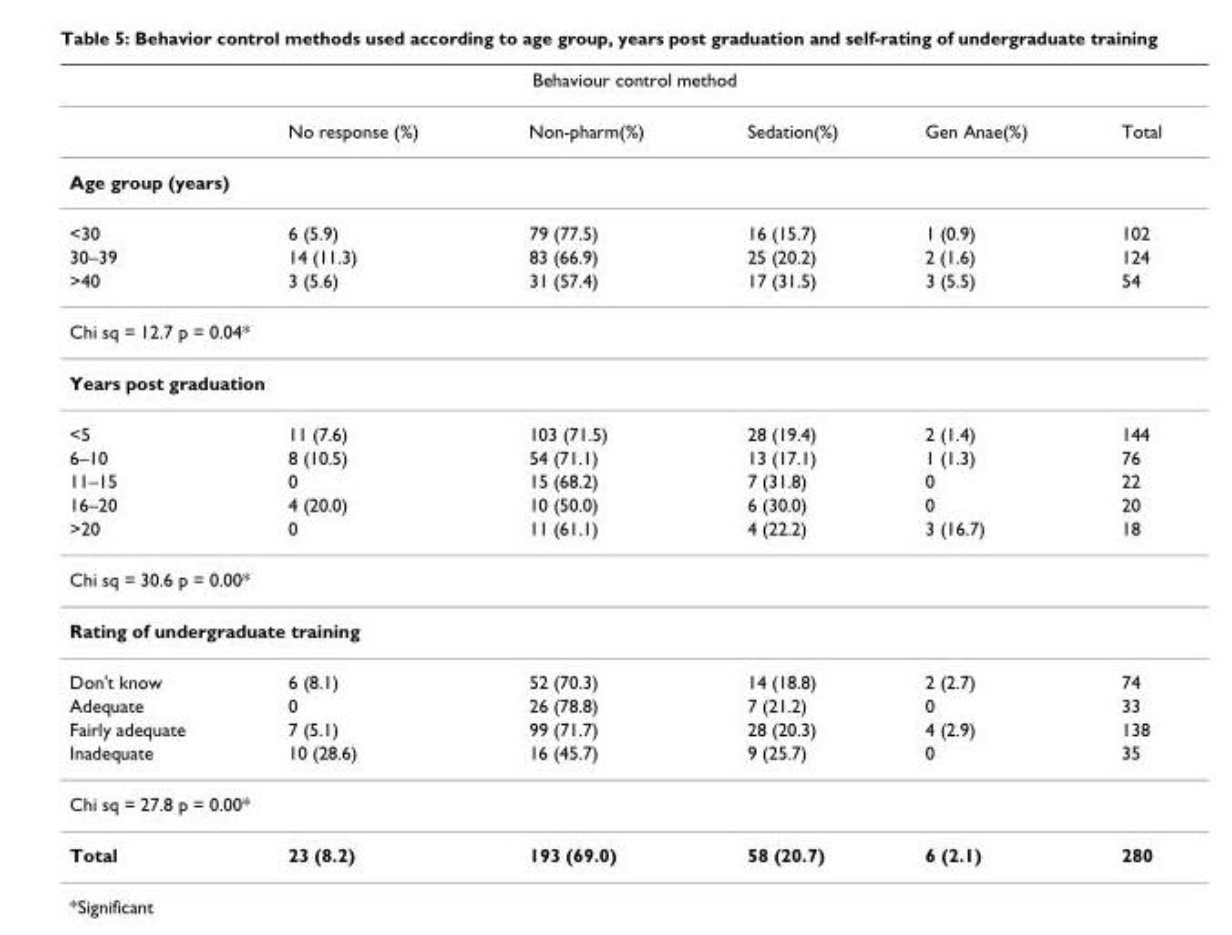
<table><thead><tr><td colspan="6">Behaviour control method</td></tr><tr><td></td><td>No response (%)</td><td>Non-pharm(%)</td><td>Sedation(%)</td><td>Gen Anae(%)</td><td>Total</td></tr></thead><tbody><tr><td colspan="6">Age group (years)</td></tr><tr><td>&lt;30</td><td>6 (5.9)</td><td>79 (77.5)</td><td>16 (15.7)</td><td>1 (0.9)</td><td>102</td></tr><tr><td>30–39</td><td>14 (11.3)</td><td>83 (66.9)</td><td>25 (20.2)</td><td>2 (1.6)</td><td>124</td></tr><tr><td>&gt;40</td><td>3 (5.6)</td><td>31 (57.4)</td><td>17 (31.5)</td><td>3 (5.5)</td><td>54</td></tr><tr><td colspan="6">Chi sq = 12.7 p = 0.04*</td></tr><tr><td colspan="6">Years post graduation</td></tr><tr><td>&lt;5</td><td>11 (7.6)</td><td>103 (71.5)</td><td>28 (19.4)</td><td>2 (1.4)</td><td>144</td></tr><tr><td>6–10</td><td>8 (10.5)</td><td>54 (71.1)</td><td>13 (17.1)</td><td>1 (1.3)</td><td>76</td></tr><tr><td>11–15</td><td>0</td><td>15 (68.2)</td><td>7 (31.8)</td><td>0</td><td>22</td></tr><tr><td>16–20</td><td>4 (20.0)</td><td>10 (50.0)</td><td>6 (30.0)</td><td>0</td><td>20</td></tr><tr><td>&gt;20</td><td>0</td><td>11 (61.1)</td><td>4 (22.2)</td><td>3 (16.7)</td><td>18</td></tr><tr><td colspan="6">Chi sq = 30.6 p = 0.00*</td></tr><tr><td colspan="6">Rating of undergraduate training</td></tr><tr><td>Don&#x27;t know</td><td>6 (8.1)</td><td>52 (70.3)</td><td>14 (18.8)</td><td>2 (2.7)</td><td>74</td></tr><tr><td>Adequate</td><td>0</td><td>26 (78.8)</td><td>7 (21.2)</td><td>0</td><td>33</td></tr><tr><td>Fairly adequate</td><td>7 (5.1)</td><td>99 (71.7)</td><td>28 (20.3)</td><td>4 (2.9)</td><td>138</td></tr><tr><td>Inadequate</td><td>10 (28.6)</td><td>16 (45.7)</td><td>9 (25.7)</td><td>0</td><td>35</td></tr><tr><td colspan="6">Chi sq = 27.8 p = 0.00*</td></tr><tr><td>Total</td><td>23 (8.2)</td><td>193 (69.0)</td><td>58 (20.7)</td><td>6 (2.1)</td><td>280</td></tr></tbody></table>